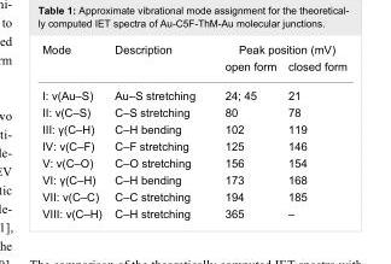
<table><tbody><tr><td rowspan="2">Mode</td><td rowspan="2">Description</td><td colspan="2">Peak position (mV)</td></tr><tr><td>open form</td><td>closed form</td></tr><tr><td>I: ν(Au–S)</td><td>Au–S stretching</td><td>24; 45</td><td>21</td></tr><tr><td>II: ν(C–S)</td><td>C–S stretching</td><td>80</td><td>78</td></tr><tr><td>III: γ(C–H)</td><td>C–H bending</td><td>102</td><td>119</td></tr><tr><td>IV: ν(C–F)</td><td>C–F stretching</td><td>125</td><td>146</td></tr><tr><td>V: ν(C–O)</td><td>C–O stretching</td><td>156</td><td>154</td></tr><tr><td>VI: γ(C–H)</td><td>C–H bending</td><td>173</td><td>168</td></tr><tr><td>VII: ν(C–C)</td><td>C–C stretching</td><td>194</td><td>185</td></tr><tr><td>VIII: ν(C–H)</td><td>C–H stretching</td><td>365</td><td>–</td></tr></tbody></table>